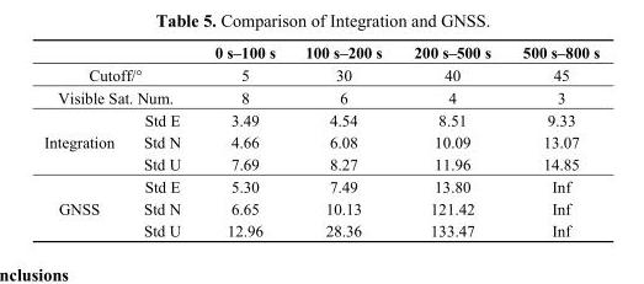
<table><thead><tr><td></td><td></td><td>0 s–100 s</td><td>100 s–200 s</td><td>200 s–500 s</td><td>500 s–800 s</td></tr></thead><tbody><tr><td colspan="2">Cutoff/°</td><td>5</td><td>30</td><td>40</td><td>45</td></tr><tr><td colspan="2">Visible Sat. Num.</td><td>8</td><td>6</td><td>4</td><td>3</td></tr><tr><td rowspan="3">Integration</td><td>Std E</td><td>3.49</td><td>4.54</td><td>8.51</td><td>9.33</td></tr><tr><td>Std N</td><td>4.66</td><td>6.08</td><td>10.09</td><td>13.07</td></tr><tr><td>Std U</td><td>7.69</td><td>8.27</td><td>11.96</td><td>14.85</td></tr><tr><td rowspan="3">GNSS</td><td>Std E</td><td>5.30</td><td>7.49</td><td>13.80</td><td>Inf</td></tr><tr><td>Std N</td><td>6.65</td><td>10.13</td><td>121.42</td><td>Inf</td></tr><tr><td>Std U</td><td>12.96</td><td>28.36</td><td>133.47</td><td>Inf</td></tr></tbody></table>